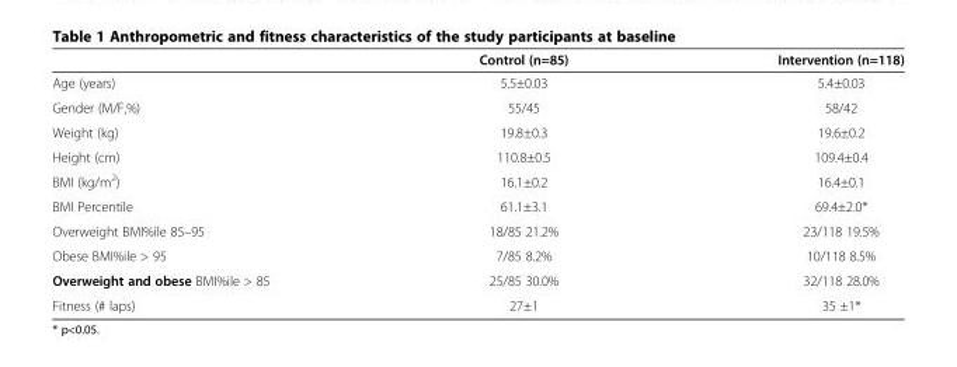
<table><thead><tr><td></td><td>Control (n=85)</td><td>Intervention (n=118)</td></tr></thead><tbody><tr><td>Age (years)</td><td>5.5±0.03</td><td>5.4±0.03</td></tr><tr><td>Gender (M/F,%)</td><td>55/45</td><td>58/42</td></tr><tr><td>Weight (kg)</td><td>19.8±0.3</td><td>19.6±0.2</td></tr><tr><td>Height (cm)</td><td>110.8±0.5</td><td>109.4±0.4</td></tr><tr><td>BMI (kg/m<sup>2</sup>)</td><td>16.1±0.2</td><td>16.4±0.1</td></tr><tr><td>BMI Percentile</td><td>61.1±3.1</td><td>69.4±2.0*</td></tr><tr><td>Overweight BMI%ile 85–95</td><td>18/85 21.2%</td><td>23/118 19.5%</td></tr><tr><td>Obese BMI%ile &gt; 95</td><td>7/85 8.2%</td><td>10/118 8.5%</td></tr><tr><td>Overweight and obese BMI%ile &gt; 85</td><td>25/85 30.0%</td><td>32/118 28.0%</td></tr><tr><td>Fitness (# laps)</td><td>27±1</td><td>35 ±1*</td></tr></tbody></table>